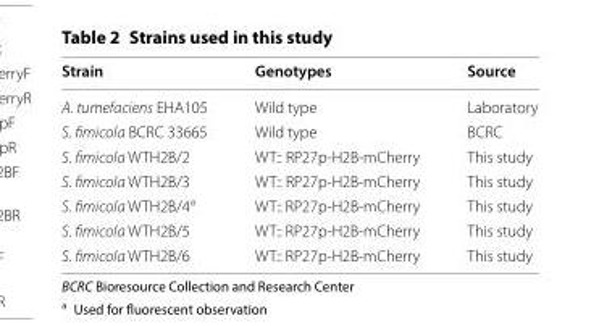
<table><thead><tr><td>Strain</td><td>Genotypes</td><td>Source</td></tr></thead><tbody><tr><td>A. tumefaciens EHA105</td><td>Wild type</td><td>Laboratory</td></tr><tr><td>S. fimicola BCRC 33665</td><td>Wild type</td><td>BCRC</td></tr><tr><td>S. fimicola WTH2B/2</td><td>WT:: RP27p‑H2B‑mCherry</td><td>This study</td></tr><tr><td>S. fimicola WTH2B/3</td><td>WT:: RP27p‑H2B‑mCherry</td><td>This study</td></tr><tr><td>S. fimicola WTH2B/4<sup>a</sup></td><td>WT:: RP27p‑H2B‑mCherry</td><td>This study</td></tr><tr><td>S. fimicola WTH2B/5</td><td>WT:: RP27p‑H2B‑mCherry</td><td>This study</td></tr><tr><td>S. fimicola WTH2B/6</td><td>WT:: RP27p‑H2B‑mCherry</td><td>This study</td></tr></tbody></table>